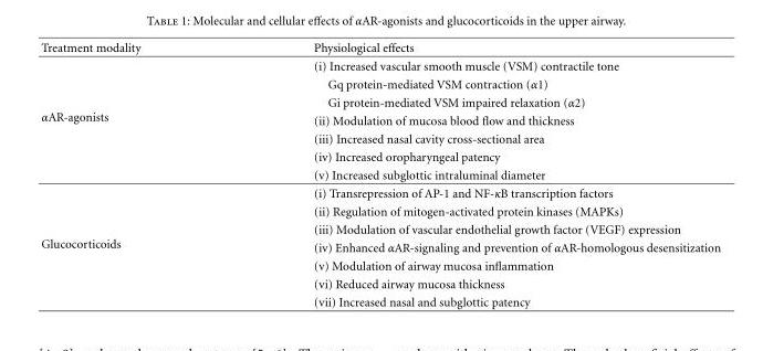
<table><thead><tr><td>Treatment modality</td><td>Physiological effects</td></tr></thead><tbody><tr><td rowspan="7">αAR-agonists</td><td>(i) Increased vascular smooth muscle (VSM) contractile tone</td></tr><tr><td>Gq protein-mediated VSM contraction (α1)</td></tr><tr><td>Gi protein-mediated VSM impaired relaxation (α2)</td></tr><tr><td>(ii) Modulation of mucosa blood flow and thickness</td></tr><tr><td>(iii) Increased nasal cavity cross-sectional area</td></tr><tr><td>(iv) Increased oropharyngeal patency</td></tr><tr><td>(v) Increased subglottic intraluminal diameter</td></tr><tr><td rowspan="7">Glucocorticoids</td><td>(i) Transrepression of AP-1 and NF-κB transcription factors</td></tr><tr><td>(ii) Regulation of mitogen-activated protein kinases (MAPKs)</td></tr><tr><td>(iii) Modulation of vascular endothelial growth factor (VEGF) expression</td></tr><tr><td>(iv) Enhanced αAR-signaling and prevention of αAR-homologous desensitization</td></tr><tr><td>(v) Modulation of airway mucosa inflammation</td></tr><tr><td>(vi) Reduced airway mucosa thickness</td></tr><tr><td>(vii) Increased nasal and subglottic patency</td></tr></tbody></table>